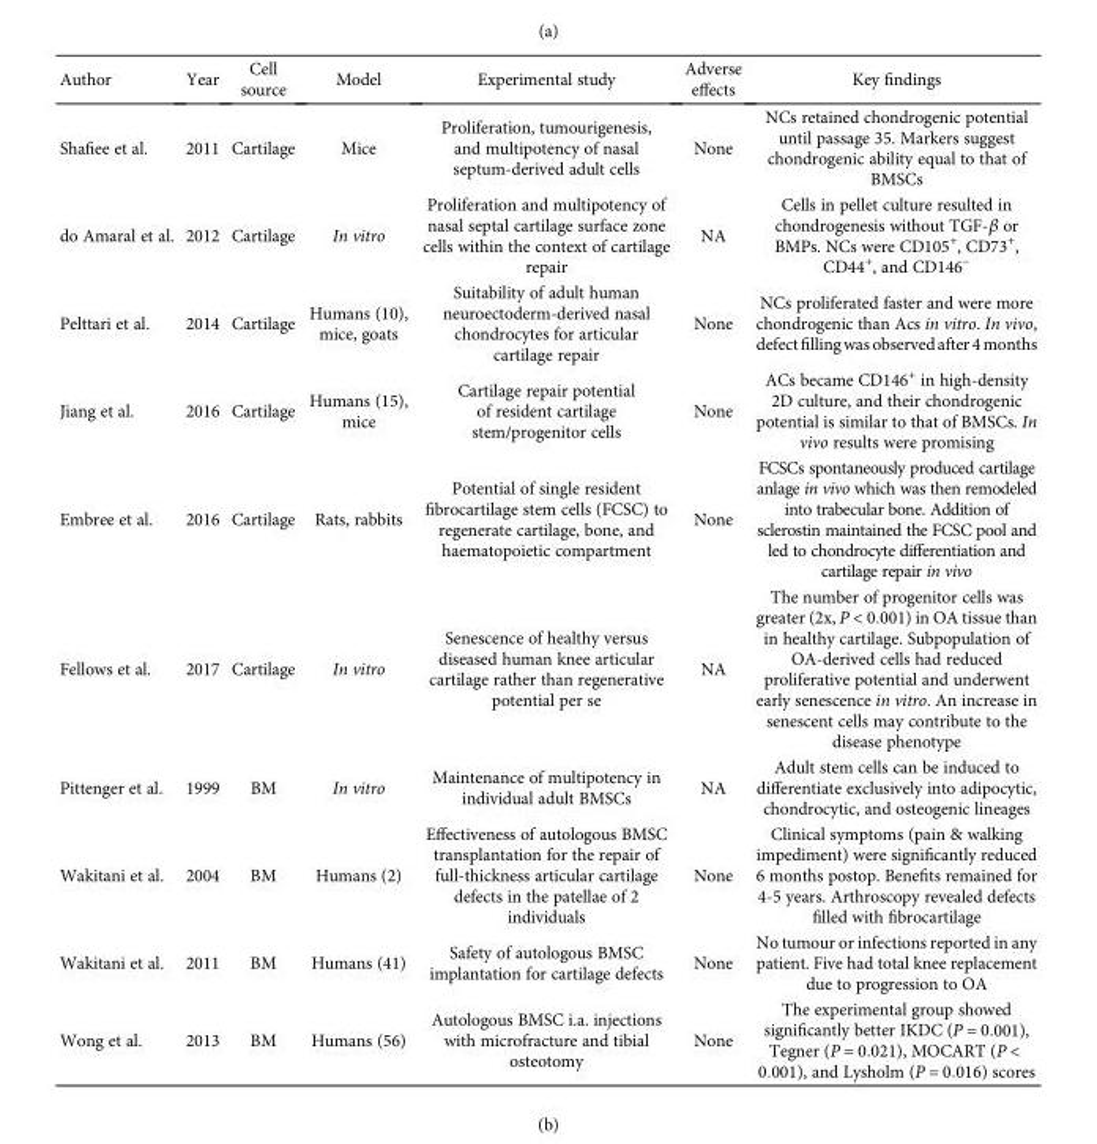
<table><thead><tr><td>Author</td><td>Year</td><td>Cell source</td><td>Model</td><td>Experimental study</td><td>Adverse effects</td><td>Key findings</td></tr></thead><tbody><tr><td>Shafiee et al.</td><td>2011</td><td>Cartilage</td><td>Mice</td><td>Proliferation, tumourigenesis, and multipotency of nasal septum-derived adult cells</td><td>None</td><td>NCs retained chondrogenic potential until passage 35. Markers suggest chondrogenic ability equal to that of BMSCs</td></tr><tr><td>do Amaral et al.</td><td>2012</td><td>Cartilage</td><td>In vitro</td><td>Proliferation and multipotency of nasal septal cartilage surface zone cells within the context of cartilage repair</td><td>NA</td><td>Cells in pellet culture resulted in chondrogenesis without TGF-β or BMPs. NCs were CD105<sup>+</sup>, CD73<sup>+</sup>, CD44<sup>+</sup>, and CD146<sup>−</sup></td></tr><tr><td>Pelttari et al.</td><td>2014</td><td>Cartilage</td><td>Humans (10), mice, goats</td><td>Suitability of adult human neuroectoderm-derived nasal chondrocytes for articular cartilage repair</td><td>None</td><td>NCs proliferated faster and were more chondrogenic than Acs in vitro. In vivo, defectfillingwasobservedafter4months</td></tr><tr><td>Jiang et al.</td><td>2016</td><td>Cartilage</td><td>Humans (15), mice</td><td>Cartilage repair potential of resident cartilage stem/progenitor cells</td><td>None</td><td>ACs became CD146<sup>+</sup> in high-density 2D culture, and their chondrogenic potential is similar to that of BMSCs. In vivo results were promising</td></tr><tr><td>Embree et al.</td><td>2016</td><td>Cartilage</td><td>Rats, rabbits</td><td>Potential of single resident fibrocartilage stem cells (FCSC) to regenerate cartilage, bone, and haematopoietic compartment</td><td>None</td><td>FCSCs spontaneously produced cartilage anlage in vivo which was then remodeled into trabecular bone. Addition of sclerostin maintained the FCSC pool and led to chondrocyte differentiation and cartilage repair in vivo</td></tr><tr><td>Fellows et al.</td><td>2017</td><td>Cartilage</td><td>In vitro</td><td>Senescence of healthy versus diseased human knee articular cartilage rather than regenerative potential per se</td><td>NA</td><td>The number of progenitor cells was greater (2x, P &lt; 0 001) in OA tissue than in healthy cartilage. Subpopulation of OA-derived cells had reduced proliferative potential and underwent early senescence in vitro. An increase in senescent cells may contribute to the disease phenotype</td></tr><tr><td>Pittenger et al.</td><td>1999</td><td>BM</td><td>In vitro</td><td>Maintenance of multipotency in individual adult BMSCs</td><td>NA</td><td>Adult stem cells can be induced to differentiate exclusively into adipocytic, chondrocytic, and osteogenic lineages</td></tr><tr><td>Wakitani et al.</td><td>2004</td><td>BM</td><td>Humans (2)</td><td>Effectiveness of autologous BMSC transplantation for the repair of full-thickness articular cartilage defects in the patellae of 2 individuals</td><td>None</td><td>Clinical symptoms (pain &amp; walking impediment) were significantly reduced 6 months postop. Benefits remained for 4-5 years. Arthroscopy revealed defects filled with fibrocartilage</td></tr><tr><td>Wakitani et al.</td><td>2011</td><td>BM</td><td>Humans (41)</td><td>Safety of autologous BMSC implantation for cartilage defects</td><td>None</td><td>No tumour or infections reported in any patient. Five had total knee replacement due to progression to OA</td></tr><tr><td>Wong et al.</td><td>2013</td><td>BM</td><td>Humans (56)</td><td>Autologous BMSC i.a. injections with microfracture and tibial osteotomy</td><td>None</td><td>The experimental group showed significantly better IKDC (P = 0 001), Tegner (P = 0 021), MOCART (P &lt; 0 001), and Lysholm (P = 0 016) scores</td></tr></tbody></table>